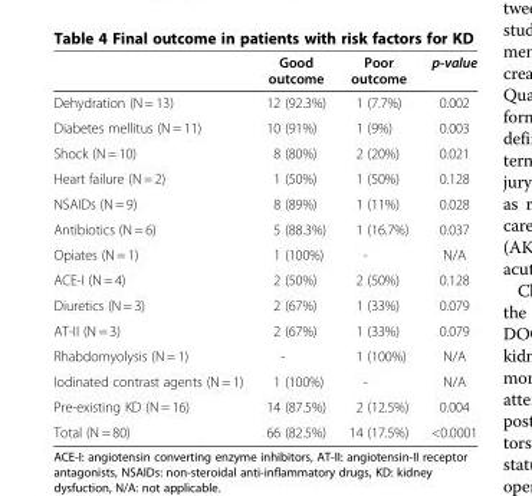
<table><thead><tr><td></td><td>Good outcome</td><td>Poor outcome</td><td>p-value</td></tr></thead><tbody><tr><td>Dehydration (N = 13)</td><td>12 (92.3%)</td><td>1 (7.7%)</td><td>0.002</td></tr><tr><td>Diabetes mellitus (N = 11)</td><td>10 (91%)</td><td>1 (9%)</td><td>0.003</td></tr><tr><td>Shock (N = 10)</td><td>8 (80%)</td><td>2 (20%)</td><td>0.021</td></tr><tr><td>Heart failure (N = 2)</td><td>1 (50%)</td><td>1 (50%)</td><td>0.128</td></tr><tr><td>NSAIDs (N = 9)</td><td>8 (89%)</td><td>1 (11%)</td><td>0.028</td></tr><tr><td>Antibiotics (N = 6)</td><td>5 (88.3%)</td><td>1 (16.7%)</td><td>0.037</td></tr><tr><td>Opiates (N = 1)</td><td>1 (100%)</td><td>-</td><td>N/A</td></tr><tr><td>ACE-I (N = 4)</td><td>2 (50%)</td><td>2 (50%)</td><td>0.128</td></tr><tr><td>Diuretics (N = 3)</td><td>2 (67%)</td><td>1 (33%)</td><td>0.079</td></tr><tr><td>AT-II (N = 3)</td><td>2 (67%)</td><td>1 (33%)</td><td>0.079</td></tr><tr><td>Rhabdomyolysis (N = 1)</td><td>-</td><td>1 (100%)</td><td>N/A</td></tr><tr><td>Iodinated contrast agents (N = 1)</td><td>1 (100%)</td><td>-</td><td>N/A</td></tr><tr><td>Pre-existing KD (N = 16)</td><td>14 (87.5%)</td><td>2 (12.5%)</td><td>0.004</td></tr><tr><td>Total (N = 80)</td><td>66 (82.5%)</td><td>14 (17.5%)</td><td>&lt;0.0001</td></tr></tbody></table>